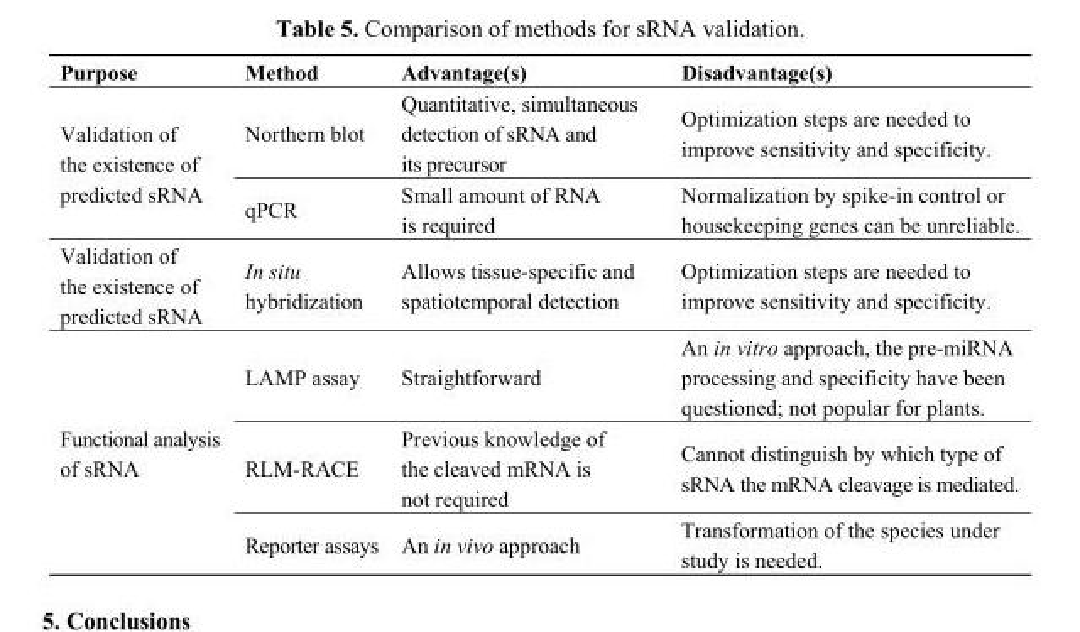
<table><thead><tr><td>Purpose</td><td>Method</td><td>Advantage(s)</td><td>Disadvantage(s)</td></tr></thead><tbody><tr><td rowspan="2">Validation of the existence of predicted sRNA</td><td>Northern blot</td><td>Quantitative, simultaneous detection of sRNA and its precursor</td><td>Optimization steps are needed to improve sensitivity and specificity.</td></tr><tr><td>qPCR</td><td>Small amount of RNA is required</td><td>Normalization by spike-in control or housekeeping genes can be unreliable.</td></tr><tr><td>Validation of the existence of predicted sRNA</td><td>In situ hybridization</td><td>Allows tissue-specific and spatiotemporal detection</td><td>Optimization steps are needed to improve sensitivity and specificity.</td></tr><tr><td rowspan="3">Functional analysis of sRNA</td><td>LAMP assay</td><td>Straightforward</td><td>An in vitro approach, the pre-miRNA processing and specificity have been questioned; not popular for plants.</td></tr><tr><td>RLM-RACE</td><td>Previous knowledge of the cleaved mRNA is not required</td><td>Cannot distinguish by which type of sRNA the mRNA cleavage is mediated.</td></tr><tr><td>Reporter assays</td><td>An in vivo approach</td><td>Transformation of the species under study is needed.</td></tr></tbody></table>